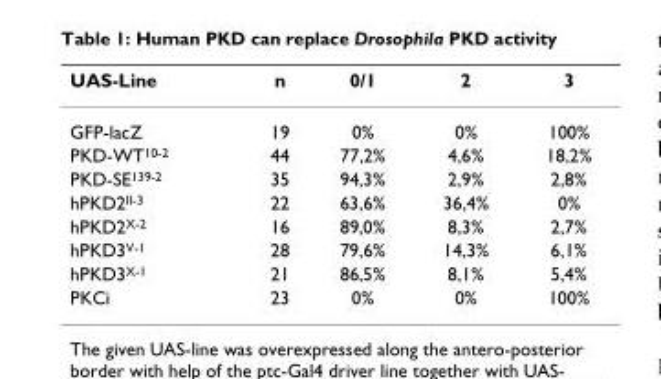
<table><thead><tr><td>UAS-Line</td><td>n</td><td>0/1</td><td>2</td><td>3</td></tr></thead><tbody><tr><td>GFP-lacZ</td><td>19</td><td>0%</td><td>0%</td><td>100%</td></tr><tr><td>PKD-WT<sup>10-2</sup></td><td>44</td><td>77,2%</td><td>4,6%</td><td>18,2%</td></tr><tr><td>PKD-SE<sup>139-2</sup></td><td>35</td><td>94,3%</td><td>2,9%</td><td>2,8%</td></tr><tr><td>hPKD2<sup>II-3</sup></td><td>22</td><td>63,6%</td><td>36,4%</td><td>0%</td></tr><tr><td>hPKD2<sup>X-2</sup></td><td>16</td><td>89,0%</td><td>8,3%</td><td>2,7%</td></tr><tr><td>hPKD3<sup>V-1</sup></td><td>28</td><td>79,6%</td><td>14,3%</td><td>6,1%</td></tr><tr><td>hPKD3<sup>X-1</sup></td><td>21</td><td>86,5%</td><td>8,1%</td><td>5,4%</td></tr><tr><td>PKCi</td><td>23</td><td>0%</td><td>0%</td><td>100%</td></tr></tbody></table>